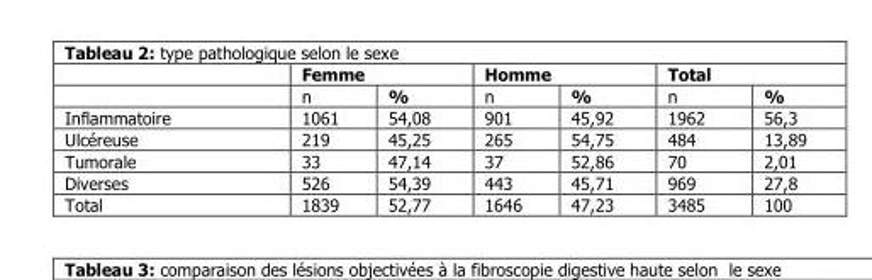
<table><thead><tr><td rowspan="2"></td><td colspan="2">Femme</td><td colspan="2">Homme</td><td colspan="2">Total</td></tr><tr><td>n</td><td>%</td><td>n</td><td>%</td><td>n</td><td>%</td></tr></thead><tbody><tr><td>Inflammatoire</td><td>1061</td><td>54,08</td><td>901</td><td>45,92</td><td>1962</td><td>56,3</td></tr><tr><td>Ulcéreuse</td><td>219</td><td>45,25</td><td>265</td><td>54,75</td><td>484</td><td>13,89</td></tr><tr><td>Tumorale</td><td>33</td><td>47,14</td><td>37</td><td>52,86</td><td>70</td><td>2,01</td></tr><tr><td>Diverses</td><td>526</td><td>54,39</td><td>443</td><td>45,71</td><td>969</td><td>27,8</td></tr><tr><td>Total</td><td>1839</td><td>52,77</td><td>1646</td><td>47,23</td><td>3485</td><td>100</td></tr></tbody></table>